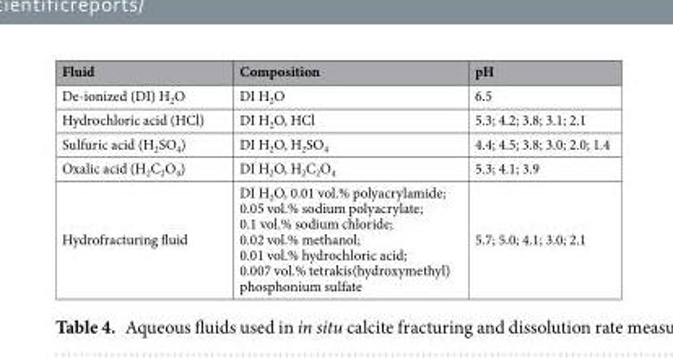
<table><thead><tr><td>Fluid</td><td>Composition</td><td>pH</td></tr></thead><tbody><tr><td>De-ionized (DI) H<sub>2</sub>O</td><td>DI H<sub>2</sub>O</td><td>6.5</td></tr><tr><td>Hydrochloric acid (HCl)</td><td>DI H<sub>2</sub>O, HCl</td><td>5.3; 4.2; 3.8; 3.1; 2.1</td></tr><tr><td>Sulfuric acid (H<sub>2</sub>SO<sub>4</sub>)</td><td>DI H<sub>2</sub>O, H<sub>2</sub>SO<sub>4</sub></td><td>4.4; 4.5; 3.8; 3.0; 2.0; 1.4</td></tr><tr><td>Oxalic acid (H<sub>2</sub>C<sub>2</sub>O<sub>4</sub>)</td><td>DI H<sub>2</sub>O, H<sub>2</sub>C<sub>2</sub>O<sub>4</sub></td><td>5.3; 4.1; 3.9</td></tr><tr><td>Hydrofracturing fluid</td><td>DI H<sub>2</sub>O, 0.01 vol.% polyacrylamide; 0.05 vol.% sodium polyacrylate; 0.1 vol.% sodium chloride; 0.02 vol.% methanol; 0.01 vol.% hydrochloric acid; 0.007 vol.% tetrakis(hydroxymethyl) phosphonium sulfate</td><td>5.7; 5.0; 4.1; 3.0; 2.1</td></tr></tbody></table>